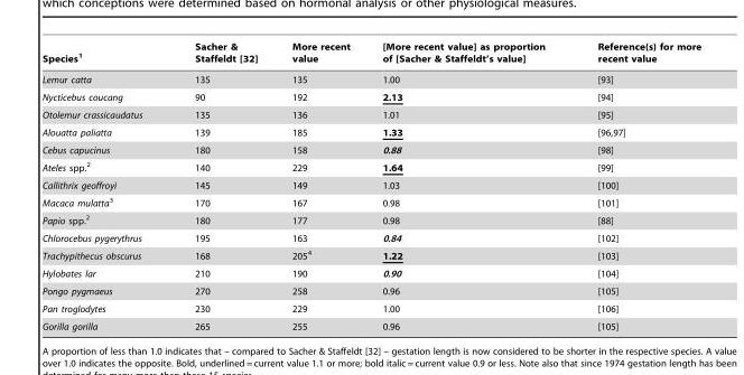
<table><thead><tr><td>Species<sup>1</sup></td><td>Sacher &amp; Staffeldt [32]</td><td>More recent value</td><td>[More recent value] as proportion of [Sacher &amp; Staffeldt’s value]</td><td>Reference(s) for more recent value</td></tr></thead><tbody><tr><td>Lemur catta</td><td>135</td><td>135</td><td>1.00</td><td>[93]</td></tr><tr><td>Nycticebus coucang</td><td>90</td><td>192</td><td>2.13</td><td>[94]</td></tr><tr><td>Otolemur crassicaudatus</td><td>135</td><td>136</td><td>1.01</td><td>[95]</td></tr><tr><td>Alouatta paliatta</td><td>139</td><td>185</td><td>1.33</td><td>[96,97]</td></tr><tr><td>Cebus capucinus</td><td>180</td><td>158</td><td>0.88</td><td>[98]</td></tr><tr><td>Ateles spp.<sup>2</sup></td><td>140</td><td>229</td><td>1.64</td><td>[99]</td></tr><tr><td>Callithrix geoffroyi</td><td>145</td><td>149</td><td>1.03</td><td>[100]</td></tr><tr><td>Macaca mulatta3</td><td>170</td><td>167</td><td>0.98</td><td>[101]</td></tr><tr><td>Papio spp.<sup>2</sup></td><td>180</td><td>177</td><td>0.98</td><td>[88]</td></tr><tr><td>Chlorocebus pygerythrus</td><td>195</td><td>163</td><td>0.84</td><td>[102]</td></tr><tr><td>Trachypithecus obscurus</td><td>168</td><td>205<sup>4</sup></td><td>1.22</td><td>[103]</td></tr><tr><td>Hylobates lar</td><td>210</td><td>190</td><td>0.90</td><td>[104]</td></tr><tr><td>Pongo pygmaeus</td><td>270</td><td>258</td><td>0.96</td><td>[105]</td></tr><tr><td>Pan troglodytes</td><td>230</td><td>229</td><td>1.00</td><td>[106]</td></tr><tr><td>Gorilla gorilla</td><td>265</td><td>255</td><td>0.96</td><td>[105]</td></tr></tbody></table>